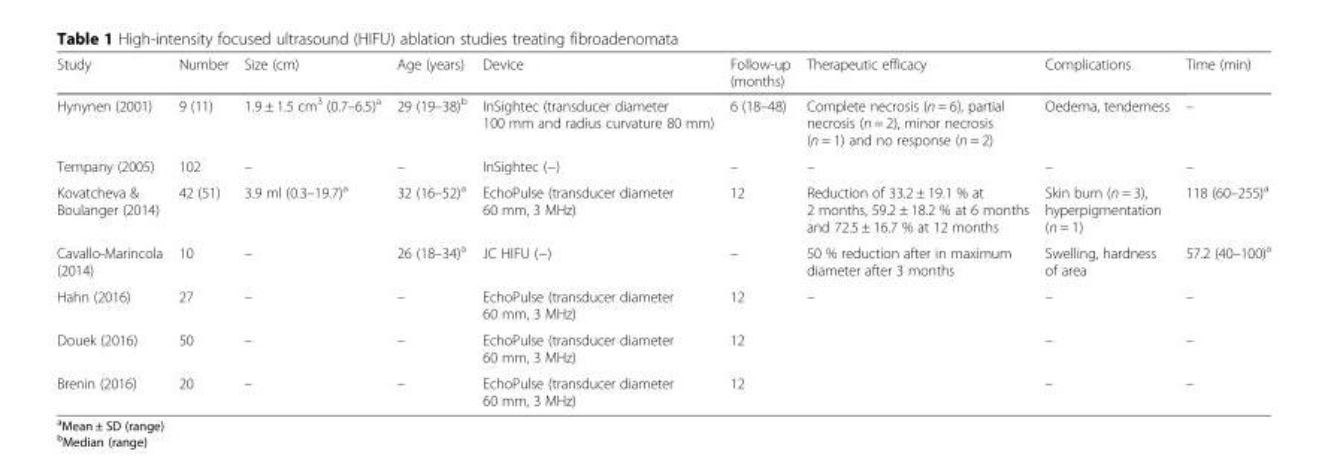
<table><thead><tr><td>Study</td><td>Number</td><td>Size (cm)</td><td>Age (years)</td><td>Device</td><td>Follow-up (months)</td><td>Therapeutic efficacy</td><td>Complications</td><td>Time (min)</td></tr></thead><tbody><tr><td>Hynynen (2001)</td><td>9 (11)</td><td>1.9 ± 1.5 cm<sup>3</sup> (0.7–6.5)<sup>a</sup></td><td>29 (19–38)<sup>b</sup></td><td>InSightec (transducer diameter 100 mm and radius curvature 80 mm)</td><td>6 (18–48)</td><td>Complete necrosis (n = 6), partial necrosis (n = 2), minor necrosis (n = 1) and no response (n = 2)</td><td>Oedema, tenderness</td><td>–</td></tr><tr><td>Tempany (2005)</td><td>102</td><td>–</td><td>–</td><td>InSightec (−)</td><td>–</td><td>–</td><td>–</td><td>–</td></tr><tr><td>Kovatcheva &amp; Boulanger (2014)</td><td>42 (51)</td><td>3.9 ml (0.3–19.7)<sup>a</sup></td><td>32 (16–52)<sup>a</sup></td><td>EchoPulse (transducer diameter 60 mm, 3 MHz)</td><td>12</td><td>Reduction of 33.2 ± 19.1 % at 2 months, 59.2 ± 18.2 % at 6 months and 72.5 ± 16.7 % at 12 months</td><td>Skin burn (n = 3), hyperpigmentation (n = 1)</td><td>118 (60–255)<sup>a</sup></td></tr><tr><td>Cavallo-Marincola (2014)</td><td>10</td><td>–</td><td>26 (18–34)<sup>a</sup></td><td>JC HIFU (−)</td><td>–</td><td>50 % reduction after in maximum diameter after 3 months</td><td>Swelling, hardness of area</td><td>57.2 (40–100)<sup>a</sup></td></tr><tr><td>Hahn (2016)</td><td>27</td><td>–</td><td>–</td><td>EchoPulse (transducer diameter 60 mm, 3 MHz)</td><td>12</td><td>–</td><td>–</td><td>–</td></tr><tr><td>Douek (2016)</td><td>50</td><td>–</td><td>–</td><td>EchoPulse (transducer diameter 60 mm, 3 MHz)</td><td>12</td><td></td><td>–</td><td>–</td></tr><tr><td>Brenin (2016)</td><td>20</td><td>–</td><td>–</td><td>EchoPulse (transducer diameter 60 mm, 3 MHz)</td><td>12</td><td></td><td>–</td><td>–</td></tr></tbody></table>